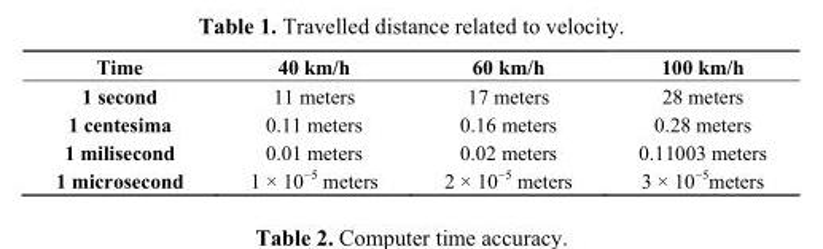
<table><thead><tr><td>Time</td><td>40 km/h</td><td>60 km/h</td><td>100 km/h</td></tr></thead><tbody><tr><td>1 second</td><td>11 meters</td><td>17 meters</td><td>28 meters</td></tr><tr><td>1 centesima</td><td>0.11 meters</td><td>0.16 meters</td><td>0.28 meters</td></tr><tr><td>1 milisecond</td><td>0.01 meters</td><td>0.02 meters</td><td>0.11003 meters</td></tr><tr><td>1 microsecond</td><td>1 × 10<sup>−5</sup> meters</td><td>2 × 10<sup>−5</sup> meters</td><td>3 × 10<sup>−5</sup>meters</td></tr></tbody></table>